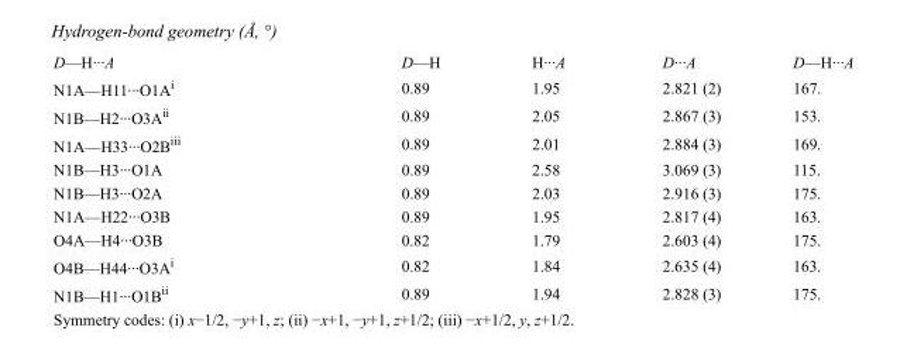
<table><tbody><tr><td>D—H···A</td><td>D—H</td><td>H···A</td><td>D···A</td><td>D—H···A</td></tr><tr><td>N1A—H11···O1A<sup>i</sup></td><td>0.89</td><td>1.95</td><td>2.821 (2)</td><td>167.</td></tr><tr><td>N1B—H2···O3A<sup>ii</sup></td><td>0.89</td><td>2.05</td><td>2.867 (3)</td><td>153.</td></tr><tr><td>N1A—H33···O2B<sup>iii</sup></td><td>0.89</td><td>2.01</td><td>2.884 (3)</td><td>169.</td></tr><tr><td>N1B—H3···O1A</td><td>0.89</td><td>2.58</td><td>3.069 (3)</td><td>115.</td></tr><tr><td>N1B—H3···O2A</td><td>0.89</td><td>2.03</td><td>2.916 (3)</td><td>175.</td></tr><tr><td>N1A—H22···O3B</td><td>0.89</td><td>1.95</td><td>2.817 (4)</td><td>163.</td></tr><tr><td>O4A—H4···O3B</td><td>0.82</td><td>1.79</td><td>2.603 (4)</td><td>175.</td></tr><tr><td>O4B—H44···O3A<sup>i</sup></td><td>0.82</td><td>1.84</td><td>2.635 (4)</td><td>163.</td></tr><tr><td>N1B—H1···O1B<sup>ii</sup></td><td>0.89</td><td>1.94</td><td>2.828 (3)</td><td>175.</td></tr></tbody></table>